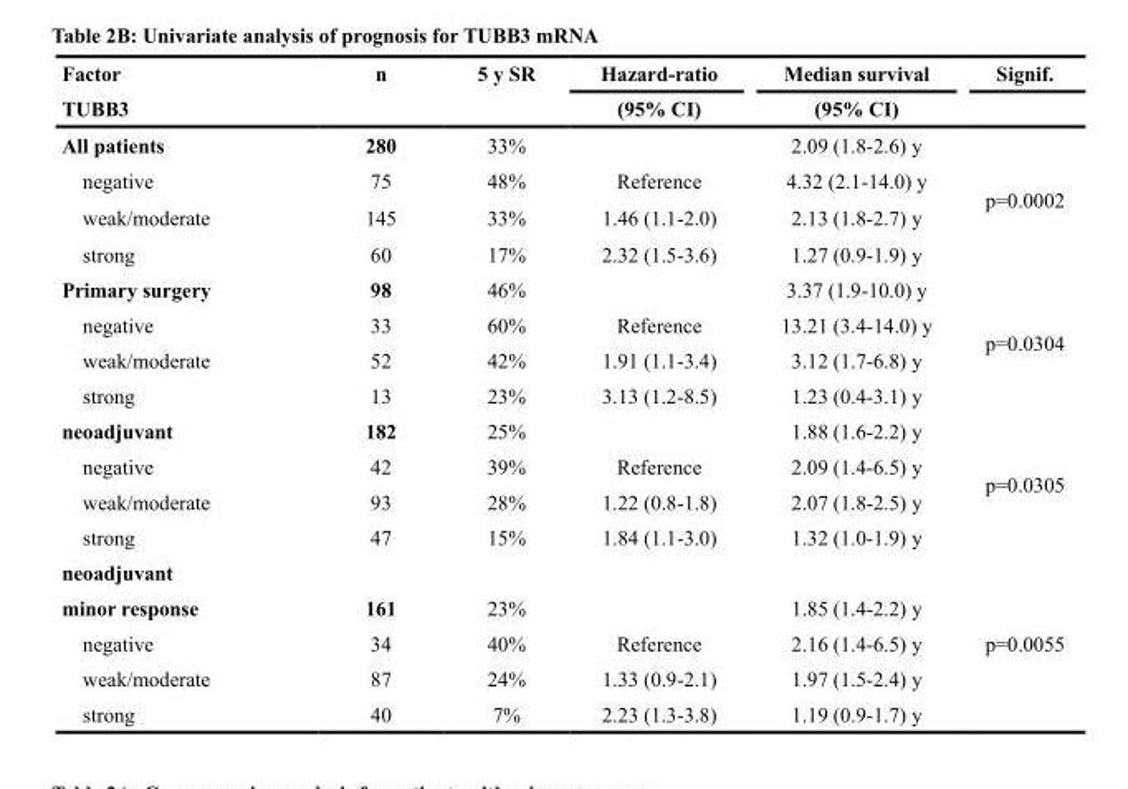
<table><thead><tr><td rowspan="2">Factor TUBB3</td><td rowspan="2">n</td><td rowspan="2">5 y SR</td><td rowspan="2">Hazard-ratio (95% CI)</td><td rowspan="2">Median survival (95% CI)</td><td rowspan="2">Signif.</td></tr><tr></tr></thead><tbody><tr><td>All patients</td><td>280</td><td>33%</td><td></td><td>2.09 (1.8-2.6) y</td><td rowspan="4">p=0.0002</td></tr><tr><td>negative</td><td>75</td><td>48%</td><td>Reference</td><td>4.32 (2.1-14.0) y</td></tr><tr><td>weak/moderate</td><td>145</td><td>33%</td><td>1.46 (1.1-2.0)</td><td>2.13 (1.8-2.7) y</td></tr><tr><td>strong</td><td>60</td><td>17%</td><td>2.32 (1.5-3.6)</td><td>1.27 (0.9-1.9) y</td></tr><tr><td>Primary surgery</td><td>98</td><td>46%</td><td></td><td>3.37 (1.9-10.0) y</td><td rowspan="4">p=0.0304</td></tr><tr><td>negative</td><td>33</td><td>60%</td><td>Reference</td><td>13.21 (3.4-14.0) y</td></tr><tr><td>weak/moderate</td><td>52</td><td>42%</td><td>1.91 (1.1-3.4)</td><td>3.12 (1.7-6.8) y</td></tr><tr><td>strong</td><td>13</td><td>23%</td><td>3.13 (1.2-8.5)</td><td>1.23 (0.4-3.1) y</td></tr><tr><td>neoadjuvant</td><td>182</td><td>25%</td><td></td><td>1.88 (1.6-2.2) y</td><td rowspan="4">p=0.0305</td></tr><tr><td>negative</td><td>42</td><td>39%</td><td>Reference</td><td>2.09 (1.4-6.5) y</td></tr><tr><td>weak/moderate</td><td>93</td><td>28%</td><td>1.22 (0.8-1.8)</td><td>2.07 (1.8-2.5) y</td></tr><tr><td>strong</td><td>47</td><td>15%</td><td>1.84 (1.1-3.0)</td><td>1.32 (1.0-1.9) y</td></tr><tr><td colspan="6">neoadjuvant</td></tr><tr><td>minor response</td><td>161</td><td>23%</td><td></td><td>1.85 (1.4-2.2) y</td><td rowspan="4">p=0.0055</td></tr><tr><td>negative</td><td>34</td><td>40%</td><td>Reference</td><td>2.16 (1.4-6.5) y</td></tr><tr><td>weak/moderate</td><td>87</td><td>24%</td><td>1.33 (0.9-2.1)</td><td>1.97 (1.5-2.4) y</td></tr><tr><td>strong</td><td>40</td><td>7%</td><td>2.23 (1.3-3.8)</td><td>1.19 (0.9-1.7) y</td></tr></tbody></table>